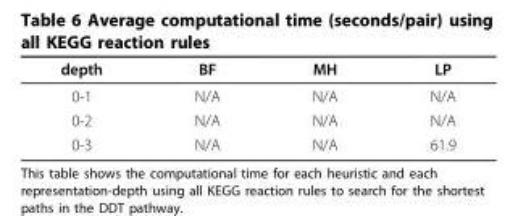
<table><thead><tr><td>depth</td><td>BF</td><td>MH</td><td>LP</td></tr></thead><tbody><tr><td>0-1</td><td>N/A</td><td>N/A</td><td>N/A</td></tr><tr><td>0-2</td><td>N/A</td><td>N/A</td><td>N/A</td></tr><tr><td>0-3</td><td>N/A</td><td>N/A</td><td>61.9</td></tr></tbody></table>